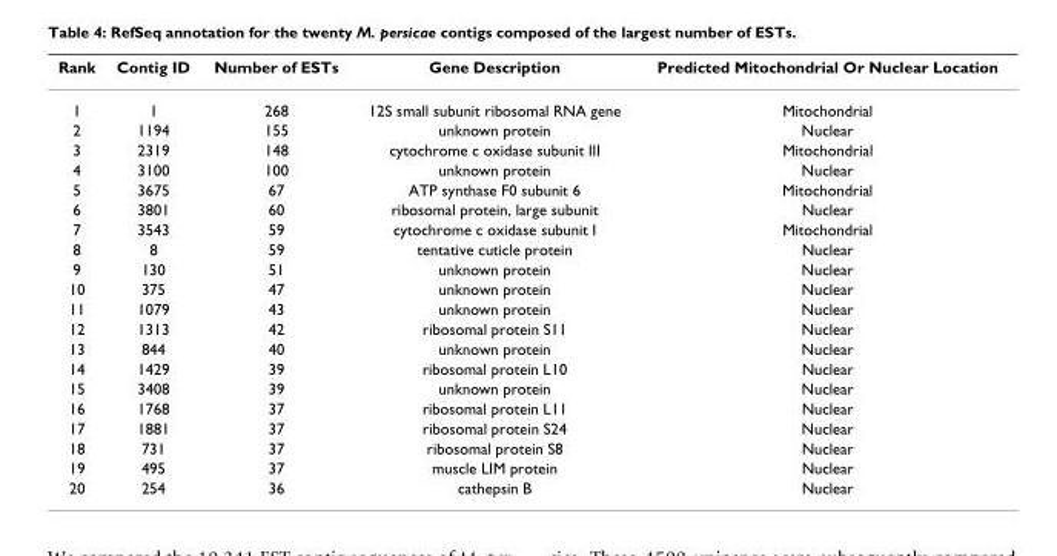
<table><thead><tr><td>Rank</td><td>Contig ID</td><td>Number of ESTs</td><td>Gene Description</td><td>Predicted Mitochondrial Or Nuclear Location</td></tr></thead><tbody><tr><td>1</td><td>1</td><td>268</td><td>12S small subunit ribosomal RNA gene</td><td>Mitochondrial</td></tr><tr><td>2</td><td>1194</td><td>155</td><td>unknown protein</td><td>Nuclear</td></tr><tr><td>3</td><td>2319</td><td>148</td><td>cytochrome c oxidase subunit III</td><td>Mitochondrial</td></tr><tr><td>4</td><td>3100</td><td>100</td><td>unknown protein</td><td>Nuclear</td></tr><tr><td>5</td><td>3675</td><td>67</td><td>ATP synthase F0 subunit 6</td><td>Mitochondrial</td></tr><tr><td>6</td><td>3801</td><td>60</td><td>ribosomal protein, large subunit</td><td>Nuclear</td></tr><tr><td>7</td><td>3543</td><td>59</td><td>cytochrome c oxidase subunit I</td><td>Mitochondrial</td></tr><tr><td>8</td><td>8</td><td>59</td><td>tentative cuticle protein</td><td>Nuclear</td></tr><tr><td>9</td><td>130</td><td>51</td><td>unknown protein</td><td>Nuclear</td></tr><tr><td>10</td><td>375</td><td>47</td><td>unknown protein</td><td>Nuclear</td></tr><tr><td>11</td><td>1079</td><td>43</td><td>unknown protein</td><td>Nuclear</td></tr><tr><td>12</td><td>1313</td><td>42</td><td>ribosomal protein S11</td><td>Nuclear</td></tr><tr><td>13</td><td>844</td><td>40</td><td>unknown protein</td><td>Nuclear</td></tr><tr><td>14</td><td>1429</td><td>39</td><td>ribosomal protein L10</td><td>Nuclear</td></tr><tr><td>15</td><td>3408</td><td>39</td><td>unknown protein</td><td>Nuclear</td></tr><tr><td>16</td><td>1768</td><td>37</td><td>ribosomal protein L11</td><td>Nuclear</td></tr><tr><td>17</td><td>1881</td><td>37</td><td>ribosomal protein S24</td><td>Nuclear</td></tr><tr><td>18</td><td>731</td><td>37</td><td>ribosomal protein S8</td><td>Nuclear</td></tr><tr><td>19</td><td>495</td><td>37</td><td>muscle LIM protein</td><td>Nuclear</td></tr><tr><td>20</td><td>254</td><td>36</td><td>cathepsin B</td><td>Nuclear</td></tr></tbody></table>